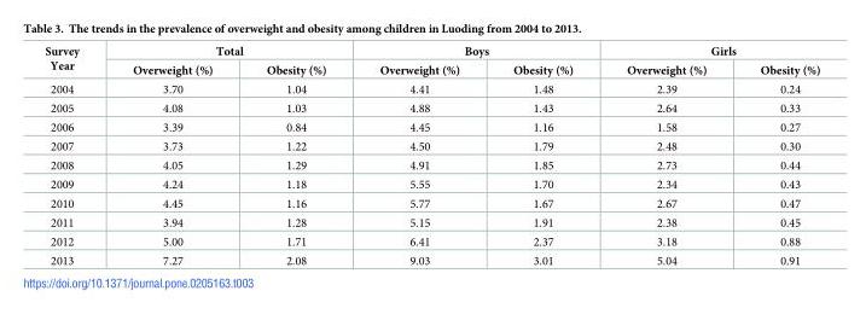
<table><thead><tr><td rowspan="2">Survey Year</td><td colspan="2">Total</td><td colspan="2">Boys</td><td colspan="2">Girls</td></tr><tr><td>Overweight (%)</td><td>Obesity (%)</td><td>Overweight (%)</td><td>Obesity (%)</td><td>Overweight (%)</td><td>Obesity (%)</td></tr></thead><tbody><tr><td>2004</td><td>3.70</td><td>1.04</td><td>4.41</td><td>1.48</td><td>2.39</td><td>0.24</td></tr><tr><td>2005</td><td>4.08</td><td>1.03</td><td>4.88</td><td>1.43</td><td>2.64</td><td>0.33</td></tr><tr><td>2006</td><td>3.39</td><td>0.84</td><td>4.45</td><td>1.16</td><td>1.58</td><td>0.27</td></tr><tr><td>2007</td><td>3.73</td><td>1.22</td><td>4.50</td><td>1.79</td><td>2.48</td><td>0.30</td></tr><tr><td>2008</td><td>4.05</td><td>1.29</td><td>4.91</td><td>1.85</td><td>2.73</td><td>0.44</td></tr><tr><td>2009</td><td>4.24</td><td>1.18</td><td>5.55</td><td>1.70</td><td>2.34</td><td>0.43</td></tr><tr><td>2010</td><td>4.45</td><td>1.16</td><td>5.77</td><td>1.67</td><td>2.67</td><td>0.47</td></tr><tr><td>2011</td><td>3.94</td><td>1.28</td><td>5.15</td><td>1.91</td><td>2.38</td><td>0.45</td></tr><tr><td>2012</td><td>5.00</td><td>1.71</td><td>6.41</td><td>2.37</td><td>3.18</td><td>0.88</td></tr><tr><td>2013</td><td>7.27</td><td>2.08</td><td>9.03</td><td>3.01</td><td>5.04</td><td>0.91</td></tr></tbody></table>